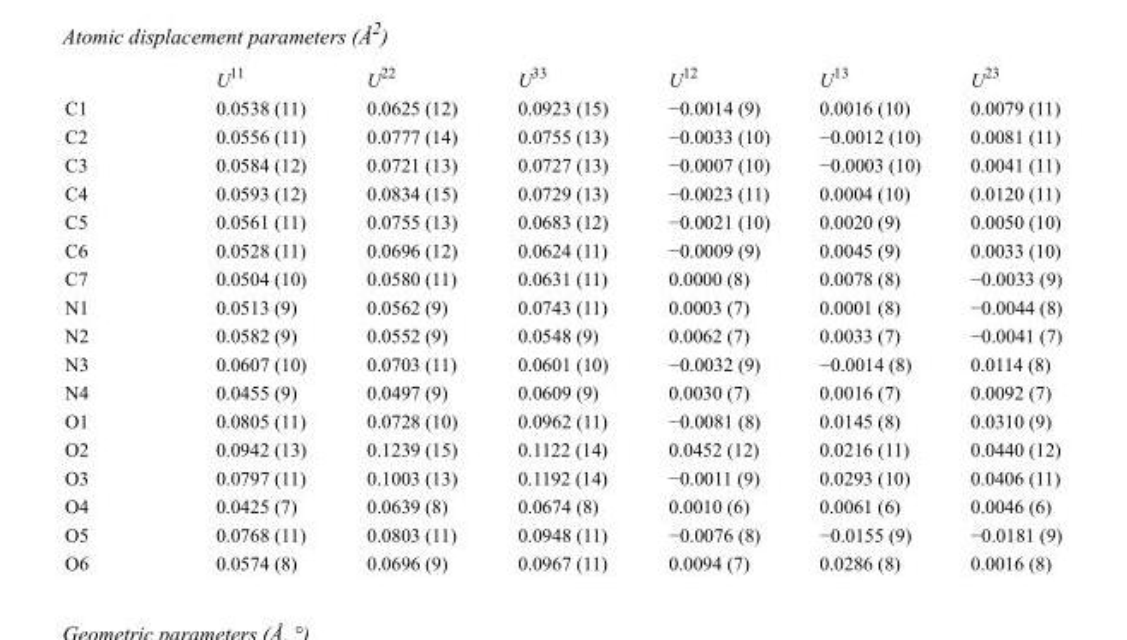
<table><thead><tr><td></td><td>U<sup>11</sup></td><td>U<sup>22</sup></td><td>U<sup>33</sup></td><td>U<sup>12</sup></td><td>U<sup>13</sup></td><td>U<sup>23</sup></td></tr></thead><tbody><tr><td>C1</td><td>0.0538 (11)</td><td>0.0625 (12)</td><td>0.0923 (15)</td><td>−0.0014 (9)</td><td>0.0016 (10)</td><td>0.0079 (11)</td></tr><tr><td>C2</td><td>0.0556 (11)</td><td>0.0777 (14)</td><td>0.0755 (13)</td><td>−0.0033 (10)</td><td>−0.0012 (10)</td><td>0.0081 (11)</td></tr><tr><td>C3</td><td>0.0584 (12)</td><td>0.0721 (13)</td><td>0.0727 (13)</td><td>−0.0007 (10)</td><td>−0.0003 (10)</td><td>0.0041 (11)</td></tr><tr><td>C4</td><td>0.0593 (12)</td><td>0.0834 (15)</td><td>0.0729 (13)</td><td>−0.0023 (11)</td><td>0.0004 (10)</td><td>0.0120 (11)</td></tr><tr><td>C5</td><td>0.0561 (11)</td><td>0.0755 (13)</td><td>0.0683 (12)</td><td>−0.0021 (10)</td><td>0.0020 (9)</td><td>0.0050 (10)</td></tr><tr><td>C6</td><td>0.0528 (11)</td><td>0.0696 (12)</td><td>0.0624 (11)</td><td>−0.0009 (9)</td><td>0.0045 (9)</td><td>0.0033 (10)</td></tr><tr><td>C7</td><td>0.0504 (10)</td><td>0.0580 (11)</td><td>0.0631 (11)</td><td>0.0000 (8)</td><td>0.0078 (8)</td><td>−0.0033 (9)</td></tr><tr><td>N1</td><td>0.0513 (9)</td><td>0.0562 (9)</td><td>0.0743 (11)</td><td>0.0003 (7)</td><td>0.0001 (8)</td><td>−0.0044 (8)</td></tr><tr><td>N2</td><td>0.0582 (9)</td><td>0.0552 (9)</td><td>0.0548 (9)</td><td>0.0062 (7)</td><td>0.0033 (7)</td><td>−0.0041 (7)</td></tr><tr><td>N3</td><td>0.0607 (10)</td><td>0.0703 (11)</td><td>0.0601 (10)</td><td>−0.0032 (9)</td><td>−0.0014 (8)</td><td>0.0114 (8)</td></tr><tr><td>N4</td><td>0.0455 (9)</td><td>0.0497 (9)</td><td>0.0609 (9)</td><td>0.0030 (7)</td><td>0.0016 (7)</td><td>0.0092 (7)</td></tr><tr><td>O1</td><td>0.0805 (11)</td><td>0.0728 (10)</td><td>0.0962 (11)</td><td>−0.0081 (8)</td><td>0.0145 (8)</td><td>0.0310 (9)</td></tr><tr><td>O2</td><td>0.0942 (13)</td><td>0.1239 (15)</td><td>0.1122 (14)</td><td>0.0452 (12)</td><td>0.0216 (11)</td><td>0.0440 (12)</td></tr><tr><td>O3</td><td>0.0797 (11)</td><td>0.1003 (13)</td><td>0.1192 (14)</td><td>−0.0011 (9)</td><td>0.0293 (10)</td><td>0.0406 (11)</td></tr><tr><td>O4</td><td>0.0425 (7)</td><td>0.0639 (8)</td><td>0.0674 (8)</td><td>0.0010 (6)</td><td>0.0061 (6)</td><td>0.0046 (6)</td></tr><tr><td>O5</td><td>0.0768 (11)</td><td>0.0803 (11)</td><td>0.0948 (11)</td><td>−0.0076 (8)</td><td>−0.0155 (9)</td><td>−0.0181 (9)</td></tr><tr><td>O6</td><td>0.0574 (8)</td><td>0.0696 (9)</td><td>0.0967 (11)</td><td>0.0094 (7)</td><td>0.0286 (8)</td><td>0.0016 (8)</td></tr></tbody></table>